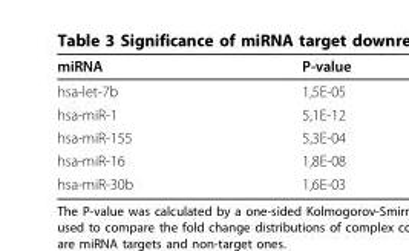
<table><thead><tr><td>miRNA</td><td>P-value</td></tr></thead><tbody><tr><td>hsa-let-7b</td><td>1,5E-05</td></tr><tr><td>hsa-miR-1</td><td>5,1E-12</td></tr><tr><td>hsa-miR-155</td><td>5,3E-04</td></tr><tr><td>hsa-miR-16</td><td>1,8E-08</td></tr><tr><td>hsa-miR-30b</td><td>1,6E-03</td></tr></tbody></table>